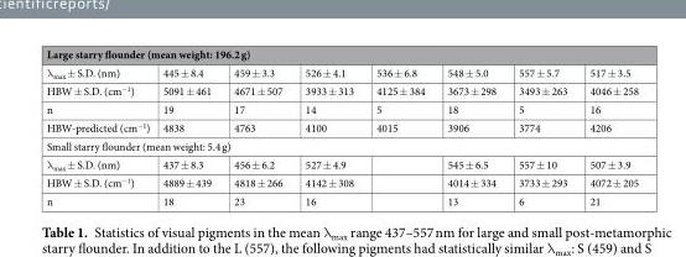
<table><thead><tr><td colspan="8">Large starry flounder (mean weight: 196.2 g)</td></tr><tr><td>λ<sub>max</sub> ± S.D. (nm)</td><td>445 ± 8.4</td><td>459 ± 3.3</td><td>526 ± 4.1</td><td>536 ± 6.8</td><td>548 ± 5.0</td><td>557 ± 5.7</td><td>517 ± 3.5</td></tr></thead><tbody><tr><td>HBW ± S.D. (cm<sup>−1</sup>)</td><td>5091 ± 461</td><td>4671 ± 507</td><td>3933 ± 313</td><td>4125 ± 384</td><td>3673 ± 298</td><td>3493 ± 263</td><td>4046 ± 258</td></tr><tr><td>n</td><td>19</td><td>17</td><td>14</td><td>5</td><td>18</td><td>5</td><td>16</td></tr><tr><td>HBW-predicted (cm<sup>−1</sup>)</td><td>4838</td><td>4763</td><td>4100</td><td>4015</td><td>3906</td><td>3774</td><td>4206</td></tr><tr><td colspan="8">Small starry flounder (mean weight: 5.4 g)</td></tr><tr><td>λ<sub>max</sub> ± S.D. (nm)</td><td>437 ± 8.3</td><td>456 ± 6.2</td><td>527 ± 4.9</td><td></td><td>545 ± 6.5</td><td>557 ± 10</td><td>507 ± 3.9</td></tr><tr><td>HBW ± S.D. (cm<sup>−1</sup>)</td><td>4889 ± 439</td><td>4818 ± 266</td><td>4142 ± 308</td><td></td><td>4014 ± 334</td><td>3733 ± 293</td><td>4072 ± 205</td></tr><tr><td>n</td><td>18</td><td>23</td><td>16</td><td></td><td>13</td><td>6</td><td>21</td></tr></tbody></table>